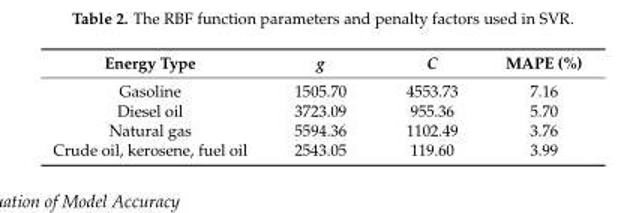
<table><thead><tr><td>Energy Type</td><td>g</td><td>C</td><td>MAPE (%)</td></tr></thead><tbody><tr><td>Gasoline</td><td>1505.70</td><td>4553.73</td><td>7.16</td></tr><tr><td>Diesel oil</td><td>3723.09</td><td>955.36</td><td>5.70</td></tr><tr><td>Natural gas</td><td>5594.36</td><td>1102.49</td><td>3.76</td></tr><tr><td>Crude oil, kerosene, fuel oil</td><td>2543.05</td><td>119.60</td><td>3.99</td></tr></tbody></table>